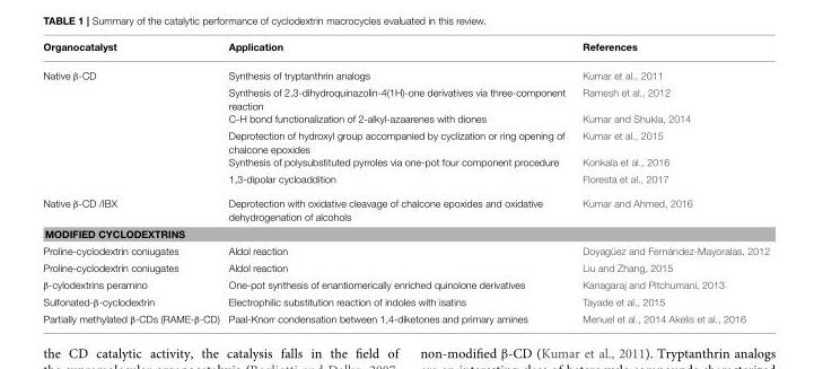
<table><thead><tr><td>Organocatalyst</td><td>Application</td><td>References</td></tr></thead><tbody><tr><td rowspan="6">Native β-CD</td><td>Synthesis of tryptanthrin analogs</td><td>Kumar et al., 2011</td></tr><tr><td>Synthesis of 2,3-dihydroquinazolin-4(1H)-one derivatives via three-component reaction</td><td>Ramesh et al., 2012</td></tr><tr><td>C-H bond functionalization of 2-alkyl-azaarenes with diones</td><td>Kumar and Shukla, 2014</td></tr><tr><td>Deprotection of hydroxyl group accompanied by cyclization or ring opening of chalcone epoxides</td><td>Kumar et al., 2015</td></tr><tr><td>Synthesis of polysubstituted pyrroles via one-pot four component procedure</td><td>Konkala et al., 2016</td></tr><tr><td>1,3-dipolar cycloaddition</td><td>Floresta et al., 2017</td></tr><tr><td>Native β-CD /IBX</td><td>Deprotection with oxidative cleavage of chalcone epoxides and oxidative dehydrogenation of alcohols</td><td>Kumar and Ahmed, 2016</td></tr><tr><td colspan="3">MODIFIED CYCLODEXTRINS</td></tr><tr><td>Proline-cyclodextrin coniugates</td><td>Aldol reaction</td><td>Doyagüez and Fernández-Mayoralas, 2012</td></tr><tr><td>Proline-cyclodextrin coniugates</td><td>Aldol reaction</td><td>Liu and Zhang, 2015</td></tr><tr><td>β-cylodextrins peramino</td><td>One-pot synthesis of enantiomerically enriched quinolone derivatives</td><td>Kanagaraj and Pitchumani, 2013</td></tr><tr><td>Sulfonated-β-cyclodextrin</td><td>Electrophilic substitution reaction of indoles with isatins</td><td>Tayade et al., 2015</td></tr><tr><td>Partially methylated β-CDs (RAME-β-CD)</td><td>Paal-Knorr condensation between 1,4-diketones and primary amines</td><td>Menuel et al., 2014 Akelis et al., 2016</td></tr></tbody></table>